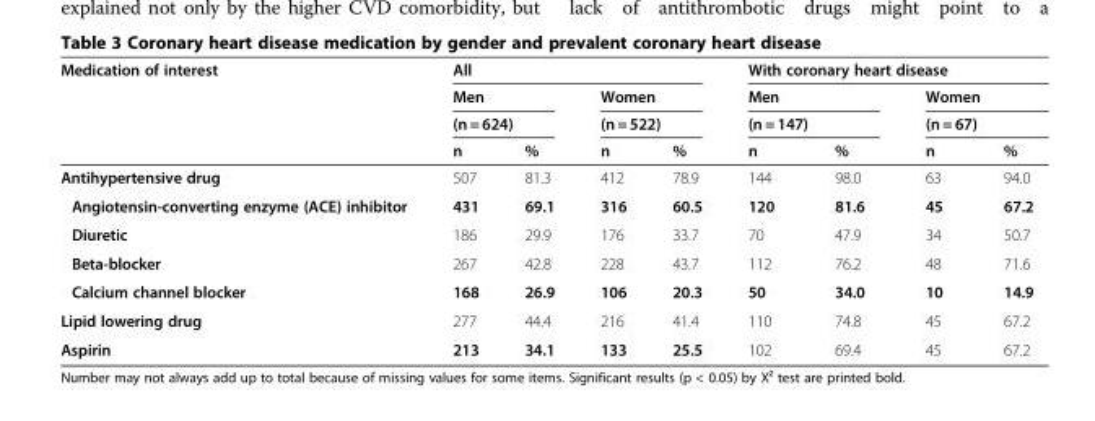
<table><thead><tr><td rowspan="4">Medication of interest</td><td colspan="4">All</td><td colspan="4">With coronary heart disease</td></tr><tr><td rowspan="2" colspan="2">Men (n = 624)</td><td rowspan="2" colspan="2">Women (n = 522)</td><td rowspan="2" colspan="2">Men (n = 147)</td><td rowspan="2" colspan="2">Women (n = 67)</td></tr><tr></tr><tr><td>n</td><td>%</td><td>n</td><td>%</td><td>n</td><td>%</td><td>n</td><td>%</td></tr></thead><tbody><tr><td>Antihypertensive drug</td><td>507</td><td>81.3</td><td>412</td><td>78.9</td><td>144</td><td>98.0</td><td>63</td><td>94.0</td></tr><tr><td>Angiotensin-converting enzyme (ACE) inhibitor</td><td>431</td><td>69.1</td><td>316</td><td>60.5</td><td>120</td><td>81.6</td><td>45</td><td>67.2</td></tr><tr><td>Diuretic</td><td>186</td><td>29.9</td><td>176</td><td>33.7</td><td>70</td><td>47.9</td><td>34</td><td>50.7</td></tr><tr><td>Beta-blocker</td><td>267</td><td>42.8</td><td>228</td><td>43.7</td><td>112</td><td>76.2</td><td>48</td><td>71.6</td></tr><tr><td>Calcium channel blocker</td><td>168</td><td>26.9</td><td>106</td><td>20.3</td><td>50</td><td>34.0</td><td>10</td><td>14.9</td></tr><tr><td>Lipid lowering drug</td><td>277</td><td>44.4</td><td>216</td><td>41.4</td><td>110</td><td>74.8</td><td>45</td><td>67.2</td></tr><tr><td>Aspirin</td><td>213</td><td>34.1</td><td>133</td><td>25.5</td><td>102</td><td>69.4</td><td>45</td><td>67.2</td></tr></tbody></table>